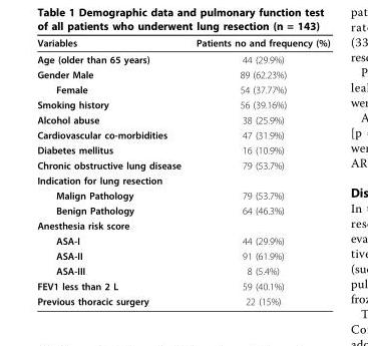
<table><thead><tr><td>Variables</td><td>Patients no and frequency (%)</td></tr></thead><tbody><tr><td>Age (older than 65 years)</td><td>44 (29.9%)</td></tr><tr><td>Gender Male</td><td>89 (62.23%)</td></tr><tr><td>Female</td><td>54 (37.77%)</td></tr><tr><td>Smoking history</td><td>56 (39.16%)</td></tr><tr><td>Alcohol abuse</td><td>38 (25.9%)</td></tr><tr><td>Cardiovascular co-morbidities</td><td>47 (31.9%)</td></tr><tr><td>Diabetes mellitus</td><td>16 (10.9%)</td></tr><tr><td>Chronic obstructive lung disease</td><td>79 (53.7%)</td></tr><tr><td colspan="2">Indication for lung resection</td></tr><tr><td>Malign Pathology</td><td>79 (53.7%)</td></tr><tr><td>Benign Pathology</td><td>64 (46.3%)</td></tr><tr><td colspan="2">Anesthesia risk score</td></tr><tr><td>ASA-I</td><td>44 (29.9%)</td></tr><tr><td>ASA-II</td><td>91 (61.9%)</td></tr><tr><td>ASA-III</td><td>8 (5.4%)</td></tr><tr><td>FEV1 less than 2 L</td><td>59 (40.1%)</td></tr><tr><td>Previous thoracic surgery</td><td>22 (15%)</td></tr></tbody></table>